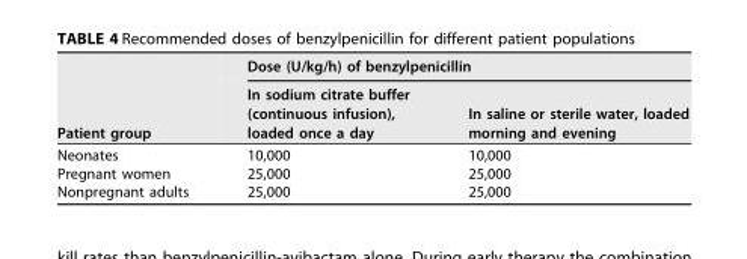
<table><thead><tr><td rowspan="2">Patient group</td><td colspan="2">Dose (U/kg/h) of benzylpenicillin</td></tr><tr><td>In sodium citrate buffer (continuous infusion), loaded once a day</td><td>In saline or sterile water, loaded morning and evening</td></tr></thead><tbody><tr><td>Neonates</td><td>10,000</td><td>10,000</td></tr><tr><td>Pregnant women</td><td>25,000</td><td>25,000</td></tr><tr><td>Nonpregnant adults</td><td>25,000</td><td>25,000</td></tr></tbody></table>